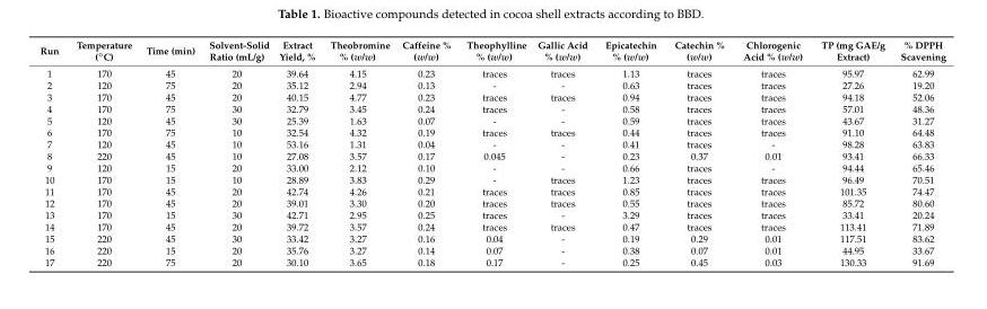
<table><thead><tr><td>Run</td><td>Temperature (◦C)</td><td>Time (min)</td><td>Solvent-Solid Ratio (mL/g)</td><td>Extract Yield, %</td><td>Theobromine % (w/w)</td><td>Caffeine % (w/w)</td><td>Theophylline % (w/w)</td><td>Gallic Acid % (w/w)</td><td>Epicatechin % (w/w)</td><td>Catechin % (w/w)</td><td>Chlorogenic Acid % (w/w)</td><td>TP (mg GAE/g Extract)</td><td>% DPPH Scavening</td></tr></thead><tbody><tr><td>1</td><td>170</td><td>45</td><td>20</td><td>39.64</td><td>4.15</td><td>0.23</td><td>traces</td><td>traces</td><td>1.13</td><td>traces</td><td>traces</td><td>95.97</td><td>62.99</td></tr><tr><td>2</td><td>120</td><td>75</td><td>20</td><td>35.12</td><td>2.94</td><td>0.13</td><td>-</td><td>-</td><td>0.63</td><td>traces</td><td>traces</td><td>27.26</td><td>19.20</td></tr><tr><td>3</td><td>170</td><td>45</td><td>20</td><td>40.15</td><td>4.77</td><td>0.23</td><td>traces</td><td>traces</td><td>0.94</td><td>traces</td><td>traces</td><td>94.18</td><td>52.06</td></tr><tr><td>4</td><td>170</td><td>75</td><td>30</td><td>32.79</td><td>3.45</td><td>0.24</td><td>traces</td><td>-</td><td>0.58</td><td>traces</td><td>traces</td><td>57.01</td><td>48.36</td></tr><tr><td>5</td><td>120</td><td>45</td><td>30</td><td>25.39</td><td>1.63</td><td>0.07</td><td>-</td><td>-</td><td>0.59</td><td>traces</td><td>traces</td><td>43.67</td><td>31.27</td></tr><tr><td>6</td><td>170</td><td>75</td><td>10</td><td>32.54</td><td>4.32</td><td>0.19</td><td>traces</td><td>traces</td><td>0.44</td><td>traces</td><td>traces</td><td>91.10</td><td>64.48</td></tr><tr><td>7</td><td>120</td><td>45</td><td>10</td><td>53.16</td><td>1.31</td><td>0.04</td><td>-</td><td>-</td><td>0.41</td><td>traces</td><td>-</td><td>98.28</td><td>63.83</td></tr><tr><td>8</td><td>220</td><td>45</td><td>10</td><td>27.08</td><td>3.57</td><td>0.17</td><td>0.045</td><td>-</td><td>0.23</td><td>0.37</td><td>0.01</td><td>93.41</td><td>66.33</td></tr><tr><td>9</td><td>120</td><td>15</td><td>20</td><td>33.00</td><td>2.12</td><td>0.10</td><td>-</td><td>-</td><td>0.66</td><td>traces</td><td>-</td><td>94.44</td><td>65.46</td></tr><tr><td>10</td><td>170</td><td>15</td><td>10</td><td>28.89</td><td>3.83</td><td>0.29</td><td>-</td><td>traces</td><td>1.23</td><td>traces</td><td>traces</td><td>96.49</td><td>70.51</td></tr><tr><td>11</td><td>170</td><td>45</td><td>20</td><td>42.74</td><td>4.26</td><td>0.21</td><td>traces</td><td>traces</td><td>0.85</td><td>traces</td><td>traces</td><td>101.35</td><td>74.47</td></tr><tr><td>12</td><td>170</td><td>45</td><td>20</td><td>39.01</td><td>3.30</td><td>0.20</td><td>traces</td><td>traces</td><td>0.55</td><td>traces</td><td>traces</td><td>85.72</td><td>80.60</td></tr><tr><td>13</td><td>170</td><td>15</td><td>30</td><td>42.71</td><td>2.95</td><td>0.25</td><td>traces</td><td>-</td><td>3.29</td><td>traces</td><td>traces</td><td>33.41</td><td>20.24</td></tr><tr><td>14</td><td>170</td><td>45</td><td>20</td><td>39.72</td><td>3.57</td><td>0.24</td><td>traces</td><td>traces</td><td>0.47</td><td>traces</td><td>traces</td><td>113.41</td><td>71.89</td></tr><tr><td>15</td><td>220</td><td>45</td><td>30</td><td>33.42</td><td>3.27</td><td>0.16</td><td>0.04</td><td>-</td><td>0.19</td><td>0.29</td><td>0.01</td><td>117.51</td><td>83.62</td></tr><tr><td>16</td><td>220</td><td>15</td><td>20</td><td>35.76</td><td>3.27</td><td>0.14</td><td>0.07</td><td>-</td><td>0.38</td><td>0.07</td><td>0.01</td><td>44.95</td><td>33.67</td></tr><tr><td>17</td><td>220</td><td>75</td><td>20</td><td>30.10</td><td>3.65</td><td>0.18</td><td>0.17</td><td>-</td><td>0.25</td><td>0.45</td><td>0.03</td><td>130.33</td><td>91.69</td></tr></tbody></table>